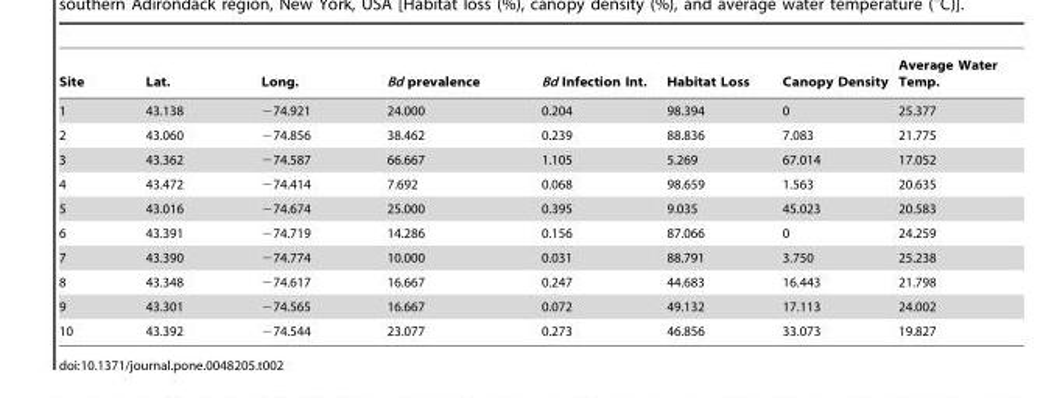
<table><thead><tr><td>Site</td><td>Lat.</td><td>Long.</td><td>Bd prevalence</td><td>Bd Infection Int.</td><td>Habitat Loss</td><td>Canopy Density</td><td>Average Water Temp.</td></tr></thead><tbody><tr><td>1</td><td>43.138</td><td>−74.921</td><td>24.000</td><td>0.204</td><td>98.394</td><td>0</td><td>25.377</td></tr><tr><td>2</td><td>43.060</td><td>−74.856</td><td>38.462</td><td>0.239</td><td>88.836</td><td>7.083</td><td>21.775</td></tr><tr><td>3</td><td>43.362</td><td>−74.587</td><td>66.667</td><td>1.105</td><td>5.269</td><td>67.014</td><td>17.052</td></tr><tr><td>4</td><td>43.472</td><td>−74.414</td><td>7.692</td><td>0.068</td><td>98.659</td><td>1.563</td><td>20.635</td></tr><tr><td>5</td><td>43.016</td><td>−74.674</td><td>25.000</td><td>0.395</td><td>9.035</td><td>45.023</td><td>20.583</td></tr><tr><td>6</td><td>43.391</td><td>−74.719</td><td>14.286</td><td>0.156</td><td>87.066</td><td>0</td><td>24.259</td></tr><tr><td>7</td><td>43.390</td><td>−74.774</td><td>10.000</td><td>0.031</td><td>88.791</td><td>3.750</td><td>25.238</td></tr><tr><td>8</td><td>43.348</td><td>−74.617</td><td>16.667</td><td>0.247</td><td>44.683</td><td>16.443</td><td>21.798</td></tr><tr><td>9</td><td>43.301</td><td>−74.565</td><td>16.667</td><td>0.072</td><td>49.132</td><td>17.113</td><td>24.002</td></tr><tr><td>10</td><td>43.392</td><td>−74.544</td><td>23.077</td><td>0.273</td><td>46.856</td><td>33.073</td><td>19.827</td></tr></tbody></table>